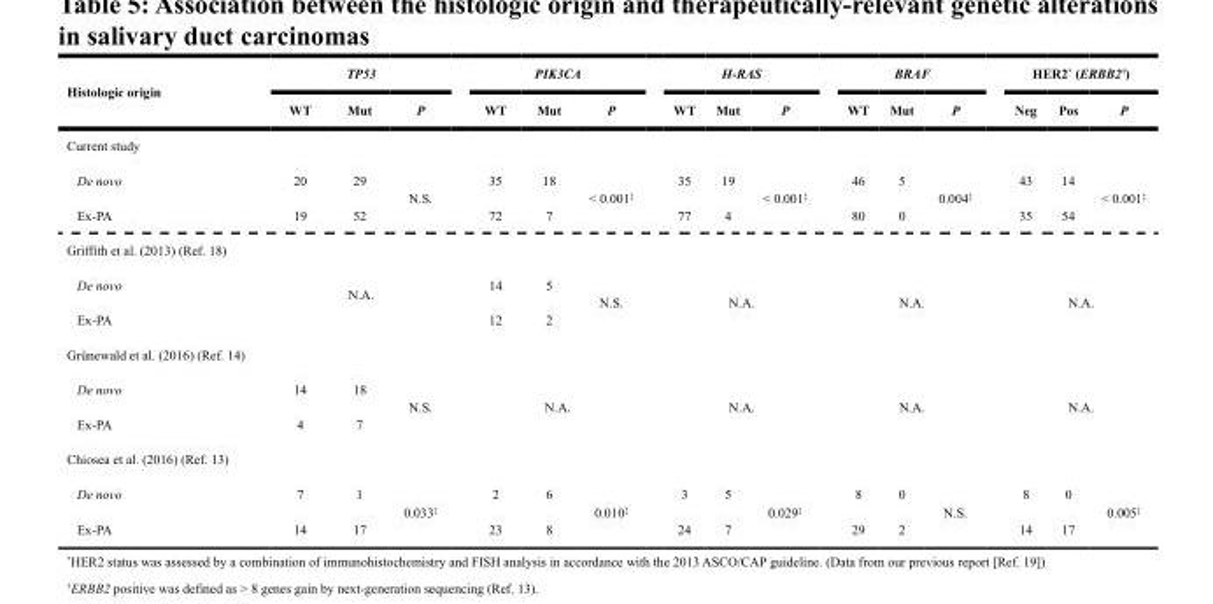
<table><thead><tr><td rowspan="2">Histologic origin</td><td colspan="3">TP53</td><td colspan="3">PIK3CA</td><td colspan="3">H-RAS</td><td colspan="3">BRAF</td><td colspan="3">HER2* (ERBB2<sup>†</sup>)</td></tr><tr><td>WT</td><td>Mut</td><td>P</td><td>WT</td><td>Mut</td><td>P</td><td>WT</td><td>Mut</td><td>P</td><td>WT</td><td>Mut</td><td>P</td><td>Neg</td><td>Pos</td><td>P</td></tr></thead><tbody><tr><td colspan="16">Current study</td></tr><tr><td>De novo</td><td>20</td><td>29</td><td rowspan="2">N.S.</td><td>35</td><td>18</td><td rowspan="2">&lt; 0.001<sup>‡</sup></td><td>35</td><td>19</td><td rowspan="2">&lt; 0.001<sup>‡</sup></td><td>46</td><td>5</td><td rowspan="2">0.004<sup>‡</sup></td><td>43</td><td>14</td><td rowspan="2">&lt; 0.001<sup>‡</sup></td></tr><tr><td>Ex-PA</td><td>19</td><td>52</td><td>72</td><td>7</td><td>77</td><td>4</td><td>80</td><td>0</td><td>35</td><td>54</td></tr><tr><td colspan="16">Griffith et al. (2013) (Ref. 18)</td></tr><tr><td>De novo</td><td rowspan="2" colspan="3">N.A.</td><td>14</td><td>5</td><td rowspan="2">N.S.</td><td rowspan="2" colspan="3">N.A.</td><td rowspan="2" colspan="3">N.A.</td><td rowspan="2" colspan="3">N.A.</td></tr><tr><td>Ex-PA</td><td>12</td><td>2</td></tr><tr><td colspan="16">Grünewald et al. (2016) (Ref. 14)</td></tr><tr><td>De novo</td><td>14</td><td>18</td><td rowspan="2">N.S.</td><td rowspan="2" colspan="3">N.A.</td><td rowspan="2" colspan="3">N.A.</td><td rowspan="2" colspan="3">N.A.</td><td rowspan="2" colspan="3">N.A.</td></tr><tr><td>Ex-PA</td><td>4</td><td>7</td></tr><tr><td colspan="16">Chiosea et al. (2016) (Ref. 13)</td></tr><tr><td>De novo</td><td>7</td><td>1</td><td rowspan="2">0.033<sup>‡</sup></td><td>2</td><td>6</td><td rowspan="2">0.010<sup>‡</sup></td><td>3</td><td>5</td><td rowspan="2">0.029<sup>‡</sup></td><td>8</td><td>0</td><td rowspan="2">N.S.</td><td>8</td><td>0</td><td rowspan="2">0.005<sup>‡</sup></td></tr><tr><td>Ex-PA</td><td>14</td><td>17</td><td>23</td><td>8</td><td>24</td><td>7</td><td>29</td><td>2</td><td>14</td><td>17</td></tr></tbody></table>